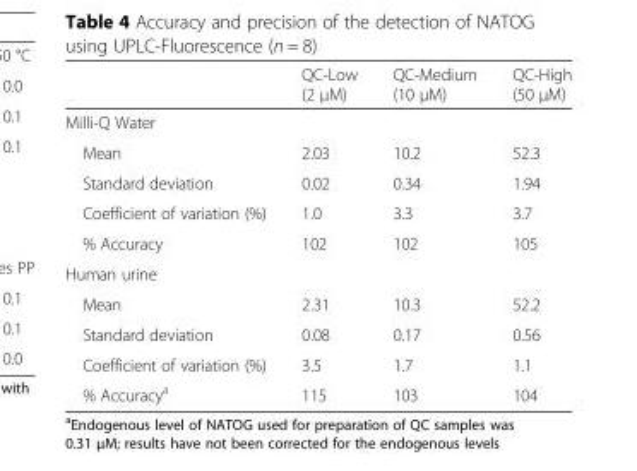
<table><thead><tr><td></td><td>QC-Low (2 μM)</td><td>QC-Medium (10 μM)</td><td>QC-High (50 μM)</td></tr></thead><tbody><tr><td colspan="4">Milli-Q Water</td></tr><tr><td>Mean</td><td>2.03</td><td>10.2</td><td>52.3</td></tr><tr><td>Standard deviation</td><td>0.02</td><td>0.34</td><td>1.94</td></tr><tr><td>Coefficient of variation (%)</td><td>1.0</td><td>3.3</td><td>3.7</td></tr><tr><td>% Accuracy</td><td>102</td><td>102</td><td>105</td></tr><tr><td colspan="4">Human urine</td></tr><tr><td>Mean</td><td>2.31</td><td>10.3</td><td>52.2</td></tr><tr><td>Standard deviation</td><td>0.08</td><td>0.17</td><td>0.56</td></tr><tr><td>Coefficient of variation (%)</td><td>3.5</td><td>1.7</td><td>1.1</td></tr><tr><td>% Accuracy<sup>a</sup></td><td>115</td><td>103</td><td>104</td></tr></tbody></table>